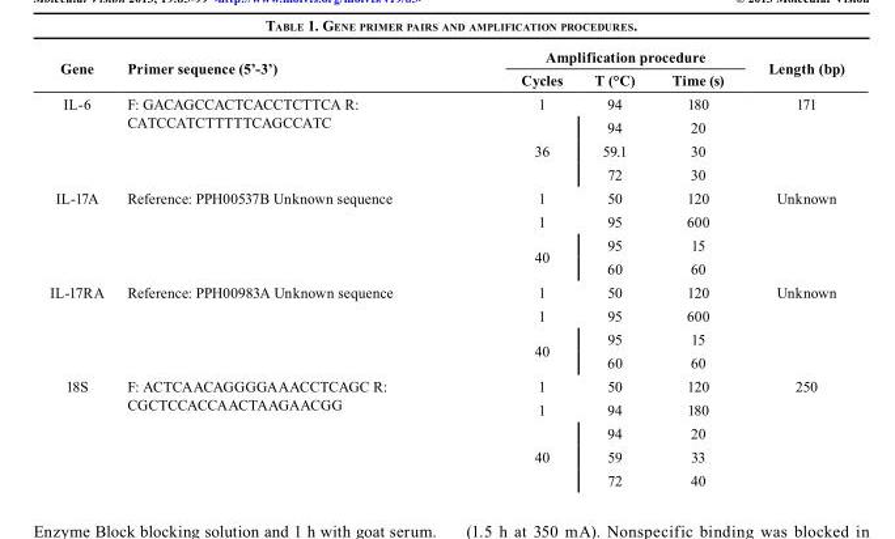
<table><thead><tr><td rowspan="2">Gene</td><td rowspan="2">Primer sequence (5’-3’)</td><td colspan="3">Amplification procedure</td><td rowspan="2">Length (bp)</td></tr><tr><td>Cycles</td><td>T (°C)</td><td>Time (s)</td></tr></thead><tbody><tr><td rowspan="4">IL-6</td><td rowspan="4">F: GACAGCCACTCACCTCTTCA R: CATCCATCTTTTTCAGCCATC</td><td>1</td><td>94</td><td>180</td><td rowspan="4">171</td></tr><tr><td rowspan="3">36</td><td>94</td><td>20</td></tr><tr><td>59.1</td><td>30</td></tr><tr><td>72</td><td>30</td></tr><tr><td rowspan="4">IL-17A</td><td rowspan="4">Reference: PPH00537B Unknown sequence</td><td>1</td><td>50</td><td>120</td><td rowspan="4">Unknown</td></tr><tr><td>1</td><td>95</td><td>600</td></tr><tr><td rowspan="2">40</td><td>95</td><td>15</td></tr><tr><td>60</td><td>60</td></tr><tr><td rowspan="4">IL-17RA</td><td rowspan="4">Reference: PPH00983A Unknown sequence</td><td>1</td><td>50</td><td>120</td><td rowspan="4">Unknown</td></tr><tr><td>1</td><td>95</td><td>600</td></tr><tr><td rowspan="2">40</td><td>95</td><td>15</td></tr><tr><td>60</td><td>60</td></tr><tr><td rowspan="5">18S</td><td rowspan="5">F: ACTCAACAGGGGAAACCTCAGC R: CGCTCCACCAACTAAGAACGG</td><td>1</td><td>50</td><td>120</td><td rowspan="5">250</td></tr><tr><td>1</td><td>94</td><td>180</td></tr><tr><td rowspan="3">40</td><td>94</td><td>20</td></tr><tr><td>59</td><td>33</td></tr><tr><td>72</td><td>40</td></tr></tbody></table>